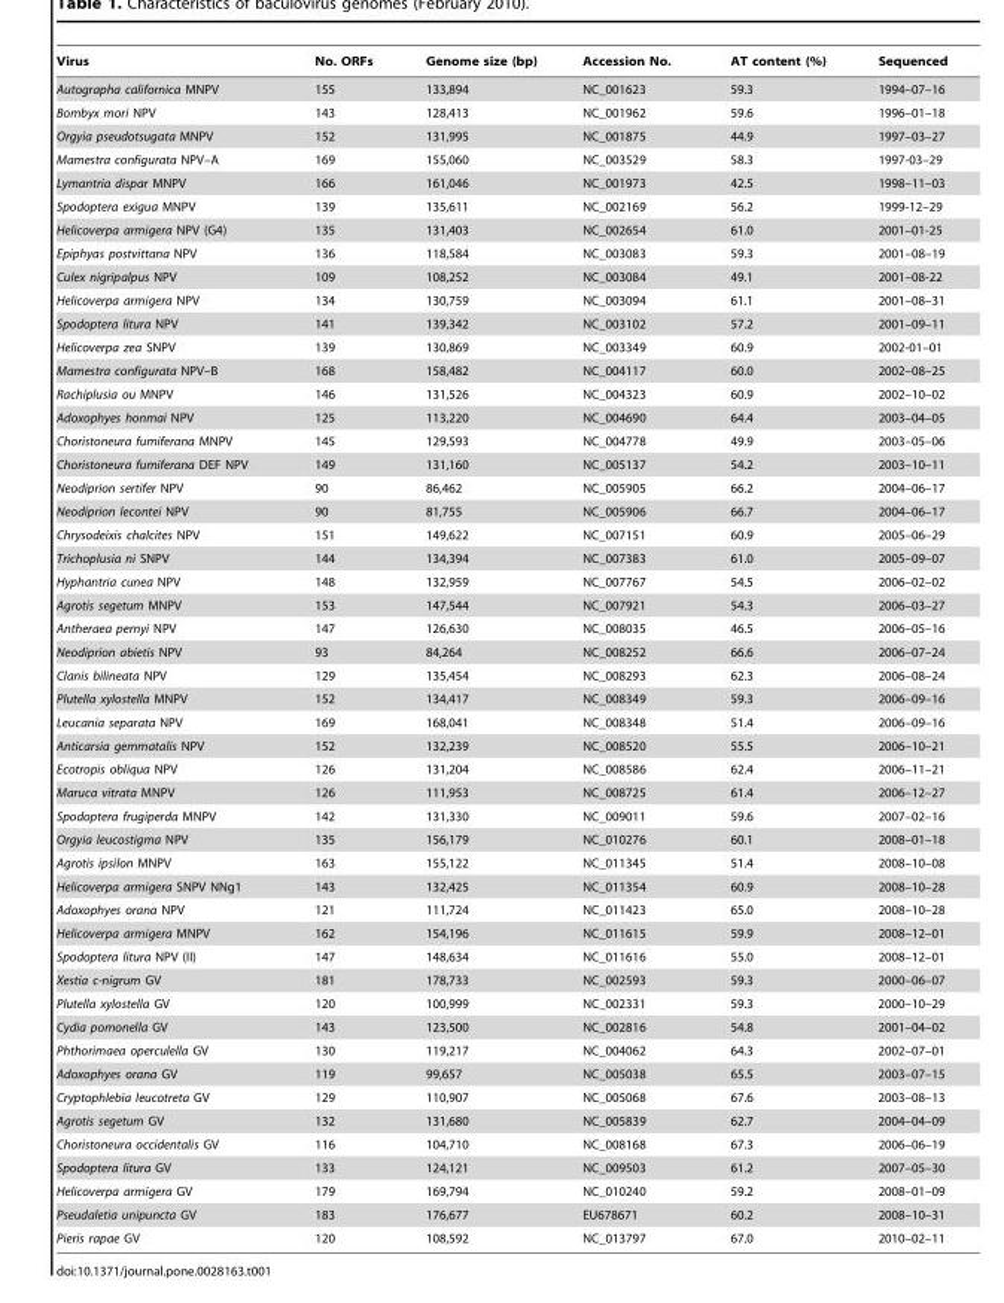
<table><thead><tr><td>Virus</td><td>No. ORFs</td><td>Genome size (bp)</td><td>Accession No.</td><td>AT content (%)</td><td>Sequenced</td></tr></thead><tbody><tr><td>Autographa californica MNPV</td><td>155</td><td>133,894</td><td>NC_001623</td><td>59.3</td><td>1994–07–16</td></tr><tr><td>Bombyx mori NPV</td><td>143</td><td>128,413</td><td>NC_001962</td><td>59.6</td><td>1996–01–18</td></tr><tr><td>Orgyia pseudotsugata MNPV</td><td>152</td><td>131,995</td><td>NC_001875</td><td>44.9</td><td>1997–03–27</td></tr><tr><td>Mamestra configurata NPV–A</td><td>169</td><td>155,060</td><td>NC_003529</td><td>58.3</td><td>1997-03–29</td></tr><tr><td>Lymantria dispar MNPV</td><td>166</td><td>161,046</td><td>NC_001973</td><td>42.5</td><td>1998–11–03</td></tr><tr><td>Spodoptera exigua MNPV</td><td>139</td><td>135,611</td><td>NC_002169</td><td>56.2</td><td>1999-12–29</td></tr><tr><td>Helicoverpa armigera NPV (G4)</td><td>135</td><td>131,403</td><td>NC_002654</td><td>61.0</td><td>2001–01-25</td></tr><tr><td>Epiphyas postvittana NPV</td><td>136</td><td>118,584</td><td>NC_003083</td><td>59.3</td><td>2001–08–19</td></tr><tr><td>Culex nigripalpus NPV</td><td>109</td><td>108,252</td><td>NC_003084</td><td>49.1</td><td>2001–08-22</td></tr><tr><td>Helicoverpa armigera NPV</td><td>134</td><td>130,759</td><td>NC_003094</td><td>61.1</td><td>2001–08–31</td></tr><tr><td>Spodoptera litura NPV</td><td>141</td><td>139,342</td><td>NC_003102</td><td>57.2</td><td>2001–09–11</td></tr><tr><td>Helicoverpa zea SNPV</td><td>139</td><td>130,869</td><td>NC_003349</td><td>60.9</td><td>2002-01–01</td></tr><tr><td>Mamestra configurata NPV–B</td><td>168</td><td>158,482</td><td>NC_004117</td><td>60.0</td><td>2002–08–25</td></tr><tr><td>Rachiplusia ou MNPV</td><td>146</td><td>131,526</td><td>NC_004323</td><td>60.9</td><td>2002–10–02</td></tr><tr><td>Adoxophyes honmai NPV</td><td>125</td><td>113,220</td><td>NC_004690</td><td>64.4</td><td>2003–04–05</td></tr><tr><td>Choristoneura fumiferana MNPV</td><td>145</td><td>129,593</td><td>NC_004778</td><td>49.9</td><td>2003–05–06</td></tr><tr><td>Choristoneura fumiferana DEF NPV</td><td>149</td><td>131,160</td><td>NC_005137</td><td>54.2</td><td>2003–10–11</td></tr><tr><td>Neodiprion sertifer NPV</td><td>90</td><td>86,462</td><td>NC_005905</td><td>66.2</td><td>2004–06–17</td></tr><tr><td>Neodiprion lecontei NPV</td><td>90</td><td>81,755</td><td>NC_005906</td><td>66.7</td><td>2004–06–17</td></tr><tr><td>Chrysodeixis chalcites NPV</td><td>151</td><td>149,622</td><td>NC_007151</td><td>60.9</td><td>2005–06–29</td></tr><tr><td>Trichoplusia ni SNPV</td><td>144</td><td>134,394</td><td>NC_007383</td><td>61.0</td><td>2005–09–07</td></tr><tr><td>Hyphantria cunea NPV</td><td>148</td><td>132,959</td><td>NC_007767</td><td>54.5</td><td>2006–02–02</td></tr><tr><td>Agrotis segetum MNPV</td><td>153</td><td>147,544</td><td>NC_007921</td><td>54.3</td><td>2006–03–27</td></tr><tr><td>Antheraea pernyi NPV</td><td>147</td><td>126,630</td><td>NC_008035</td><td>46.5</td><td>2006–05–16</td></tr><tr><td>Neodiprion abietis NPV</td><td>93</td><td>84,264</td><td>NC_008252</td><td>66.6</td><td>2006–07–24</td></tr><tr><td>Clanis bilineata NPV</td><td>129</td><td>135,454</td><td>NC_008293</td><td>62.3</td><td>2006–08–24</td></tr><tr><td>Plutella xylostella MNPV</td><td>152</td><td>134,417</td><td>NC_008349</td><td>59.3</td><td>2006–09–16</td></tr><tr><td>Leucania separata NPV</td><td>169</td><td>168,041</td><td>NC_008348</td><td>51.4</td><td>2006–09–16</td></tr><tr><td>Anticarsia gemmatalis NPV</td><td>152</td><td>132,239</td><td>NC_008520</td><td>55.5</td><td>2006–10–21</td></tr><tr><td>Ecotropis obliqua NPV</td><td>126</td><td>131,204</td><td>NC_008586</td><td>62.4</td><td>2006–11–21</td></tr><tr><td>Maruca vitrata MNPV</td><td>126</td><td>111,953</td><td>NC_008725</td><td>61.4</td><td>2006–12–27</td></tr><tr><td>Spodoptera frugiperda MNPV</td><td>142</td><td>131,330</td><td>NC_009011</td><td>59.6</td><td>2007–02–16</td></tr><tr><td>Orgyia leucostigma NPV</td><td>135</td><td>156,179</td><td>NC_010276</td><td>60.1</td><td>2008–01–18</td></tr><tr><td>Agrotis ipsilon MNPV</td><td>163</td><td>155,122</td><td>NC_011345</td><td>51.4</td><td>2008–10–08</td></tr><tr><td>Helicoverpa armigera SNPV NNg1</td><td>143</td><td>132,425</td><td>NC_011354</td><td>60.9</td><td>2008–10–28</td></tr><tr><td>Adoxophyes orana NPV</td><td>121</td><td>111,724</td><td>NC_011423</td><td>65.0</td><td>2008–10–28</td></tr><tr><td>Helicoverpa armigera MNPV</td><td>162</td><td>154,196</td><td>NC_011615</td><td>59.9</td><td>2008–12–01</td></tr><tr><td>Spodoptera litura NPV (II)</td><td>147</td><td>148,634</td><td>NC_011616</td><td>55.0</td><td>2008–12–01</td></tr><tr><td>Xestia c-nigrum GV</td><td>181</td><td>178,733</td><td>NC_002593</td><td>59.3</td><td>2000–06–07</td></tr><tr><td>Plutella xylostella GV</td><td>120</td><td>100,999</td><td>NC_002331</td><td>59.3</td><td>2000–10–29</td></tr><tr><td>Cydia pomonella GV</td><td>143</td><td>123,500</td><td>NC_002816</td><td>54.8</td><td>2001–04–02</td></tr><tr><td>Phthorimaea operculella GV</td><td>130</td><td>119,217</td><td>NC_004062</td><td>64.3</td><td>2002–07–01</td></tr><tr><td>Adoxophyes orana GV</td><td>119</td><td>99,657</td><td>NC_005038</td><td>65.5</td><td>2003–07–15</td></tr><tr><td>Cryptophlebia leucotreta GV</td><td>129</td><td>110,907</td><td>NC_005068</td><td>67.6</td><td>2003–08–13</td></tr><tr><td>Agrotis segetum GV</td><td>132</td><td>131,680</td><td>NC_005839</td><td>62.7</td><td>2004–04–09</td></tr><tr><td>Choristoneura occidentalis GV</td><td>116</td><td>104,710</td><td>NC_008168</td><td>67.3</td><td>2006–06–19</td></tr><tr><td>Spodoptera litura GV</td><td>133</td><td>124,121</td><td>NC_009503</td><td>61.2</td><td>2007–05–30</td></tr><tr><td>Helicoverpa armigera GV</td><td>179</td><td>169,794</td><td>NC_010240</td><td>59.2</td><td>2008–01–09</td></tr><tr><td>Pseudaletia unipuncta GV</td><td>183</td><td>176,677</td><td>EU678671</td><td>60.2</td><td>2008–10–31</td></tr><tr><td>Pieris rapae GV</td><td>120</td><td>108,592</td><td>NC_013797</td><td>67.0</td><td>2010–02–11</td></tr></tbody></table>